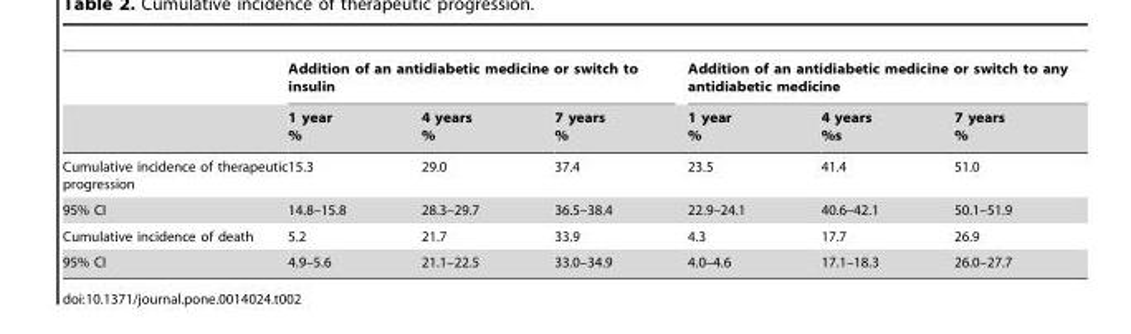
<table><thead><tr><td rowspan="2"></td><td colspan="3">Addition of an antidiabetic medicine or switch to insulin</td><td colspan="3">Addition of an antidiabetic medicine or switch to any antidiabetic medicine</td></tr><tr><td>1 year %</td><td>4 years %</td><td>7 years %</td><td>1 year %</td><td>4 years %s</td><td>7 years %</td></tr></thead><tbody><tr><td>Cumulative incidence of therapeutic progression</td><td>15.3</td><td>29.0</td><td>37.4</td><td>23.5</td><td>41.4</td><td>51.0</td></tr><tr><td>95% CI</td><td>14.8–15.8</td><td>28.3–29.7</td><td>36.5–38.4</td><td>22.9–24.1</td><td>40.6–42.1</td><td>50.1–51.9</td></tr><tr><td>Cumulative incidence of death</td><td>5.2</td><td>21.7</td><td>33.9</td><td>4.3</td><td>17.7</td><td>26.9</td></tr><tr><td>95% CI</td><td>4.9–5.6</td><td>21.1–22.5</td><td>33.0–34.9</td><td>4.0–4.6</td><td>17.1–18.3</td><td>26.0–27.7</td></tr></tbody></table>